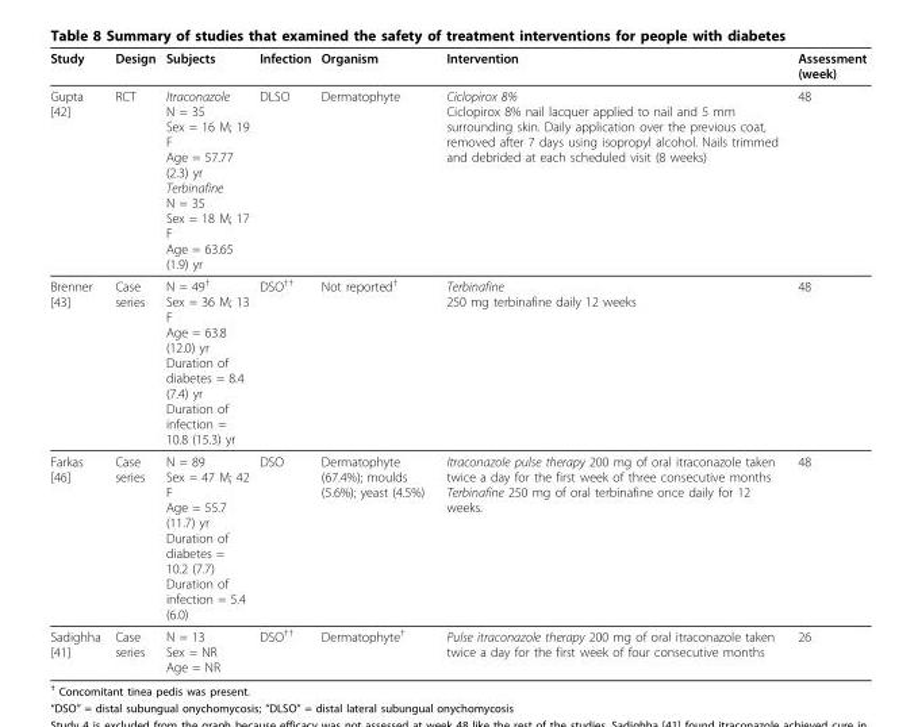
<table><thead><tr><td>Study</td><td>Design</td><td>Subjects</td><td>Infection</td><td>Organism</td><td>Intervention</td><td>Assessment (week)</td></tr></thead><tbody><tr><td>Gupta [42]</td><td>RCT</td><td>Itraconazole N = 35 Sex = 16 M; 19 F Age = 57.77 (2.3) yr Terbinafine N = 35 Sex = 18 M; 17 F Age = 63.65 (1.9) yr</td><td>DLSO</td><td>Dermatophyte</td><td>Ciclopirox 8% Ciclopirox 8% nail lacquer applied to nail and 5 mm surrounding skin. Daily application over the previous coat, removed after 7 days using isopropyl alcohol. Nails trimmed and debrided at each scheduled visit (8 weeks)</td><td>48</td></tr><tr><td>Brenner [43]</td><td>Case series</td><td>N = 49<sup>†</sup> Sex = 36 M; 13 F Age = 63.8 (12.0) yr Duration of diabetes = 8.4 (7.4) yr Duration of infection = 10.8 (15.3) yr</td><td>DSO<sup>††</sup></td><td>Not reported<sup>†</sup></td><td>Terbinafine 250 mg terbinafine daily 12 weeks</td><td>48</td></tr><tr><td>Farkas [46]</td><td>Case series</td><td>N = 89 Sex = 47 M; 42 F Age = 55.7 (11.7) yr Duration of diabetes = 10.2 (7.7) Duration of infection = 5.4 (6.0)</td><td>DSO</td><td>Dermatophyte (67.4%); moulds (5.6%); yeast (4.5%)</td><td>Itraconazole pulse therapy 200 mg of oral itraconazole taken twice a day for the first week of three consecutive months Terbinafine 250 mg of oral terbinafine once daily for 12 weeks.</td><td>48</td></tr><tr><td>Sadighha [41]</td><td>Case series</td><td>N = 13 Sex = NR Age = NR</td><td>DSO<sup>††</sup></td><td>Dermatophyte<sup>†</sup></td><td>Pulse itraconazole therapy 200 mg of oral itraconazole taken twice a day for the first week of four consecutive months</td><td>26</td></tr></tbody></table>